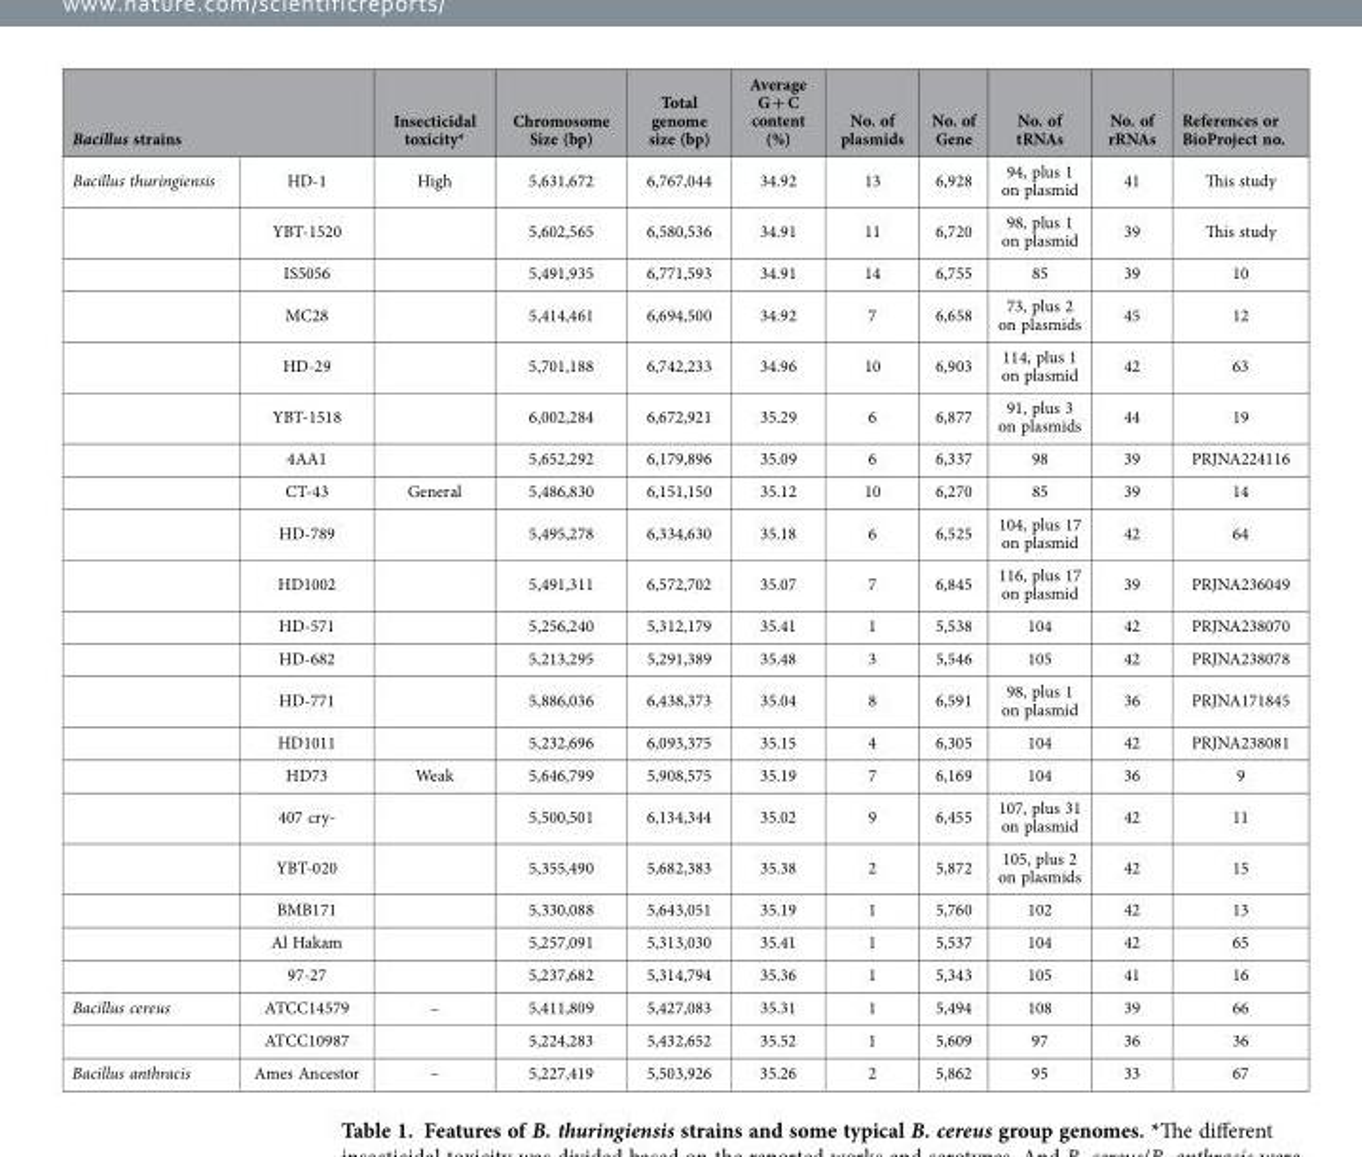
<table><thead><tr><td colspan="2">Bacillus strains</td><td rowspan="2">Insecticidal toxicity* High</td><td rowspan="2">Chromosome Size (bp) 5,631,672</td><td rowspan="2">Total genome size (bp) 6,767,044</td><td rowspan="2">Average G + C content (%) 34.92</td><td rowspan="2">No. of plasmids 13</td><td rowspan="2">No. of Gene 6,928</td><td rowspan="2">No. of tRNAs 94, plus 1 on plasmid</td><td rowspan="2">No. of rRNAs 41</td><td rowspan="2">References or BioProject no. This study</td></tr><tr><td>Bacillus thuringiensis</td><td>HD-1</td></tr></thead><tbody><tr><td></td><td>YBT-1520</td><td></td><td>5,602,565</td><td>6,580,536</td><td>34.91</td><td>11</td><td>6,720</td><td>98, plus 1 on plasmid</td><td>39</td><td>This study</td></tr><tr><td></td><td>IS5056</td><td></td><td>5,491,935</td><td>6,771,593</td><td>34.91</td><td>14</td><td>6,755</td><td>85</td><td>39</td><td>10</td></tr><tr><td></td><td>MC28</td><td></td><td>5,414,461</td><td>6,694,500</td><td>34.92</td><td>7</td><td>6,658</td><td>73, plus 2 on plasmids</td><td>45</td><td>12</td></tr><tr><td></td><td>HD-29</td><td></td><td>5,701,188</td><td>6,742,233</td><td>34.96</td><td>10</td><td>6,903</td><td>114, plus 1 on plasmid</td><td>42</td><td>63</td></tr><tr><td></td><td>YBT-1518</td><td></td><td>6,002,284</td><td>6,672,921</td><td>35.29</td><td>6</td><td>6,877</td><td>91, plus 3 on plasmids</td><td>44</td><td>19</td></tr><tr><td></td><td>4AA1</td><td></td><td>5,652,292</td><td>6,179,896</td><td>35.09</td><td>6</td><td>6,337</td><td>98</td><td>39</td><td>PRJNA224116</td></tr><tr><td></td><td>CT-43</td><td>General</td><td>5,486,830</td><td>6,151,150</td><td>35.12</td><td>10</td><td>6,270</td><td>85</td><td>39</td><td>14</td></tr><tr><td></td><td>HD-789</td><td></td><td>5,495,278</td><td>6,334,630</td><td>35.18</td><td>6</td><td>6,525</td><td>104, plus 17 on plasmid</td><td>42</td><td>64</td></tr><tr><td></td><td>HD1002</td><td></td><td>5,491,311</td><td>6,572,702</td><td>35.07</td><td>7</td><td>6,845</td><td>116, plus 17 on plasmid</td><td>39</td><td>PRJNA236049</td></tr><tr><td></td><td>HD-571</td><td></td><td>5,256,240</td><td>5,312,179</td><td>35.41</td><td>1</td><td>5,538</td><td>104</td><td>42</td><td>PRJNA238070</td></tr><tr><td></td><td>HD-682</td><td></td><td>5,213,295</td><td>5,291,389</td><td>35.48</td><td>3</td><td>5,546</td><td>105</td><td>42</td><td>PRJNA238078</td></tr><tr><td></td><td>HD-771</td><td></td><td>5,886,036</td><td>6,438,373</td><td>35.04</td><td>8</td><td>6,591</td><td>98, plus 1 on plasmid</td><td>36</td><td>PRJNA171845</td></tr><tr><td></td><td>HD1011</td><td></td><td>5,232,696</td><td>6,093,375</td><td>35.15</td><td>4</td><td>6,305</td><td>104</td><td>42</td><td>PRJNA238081</td></tr><tr><td></td><td>HD73</td><td>Weak</td><td>5,646,799</td><td>5,908,575</td><td>35.19</td><td>7</td><td>6,169</td><td>104</td><td>36</td><td>9</td></tr><tr><td></td><td>407 cry-</td><td></td><td>5,500,501</td><td>6,134,344</td><td>35.02</td><td>9</td><td>6,455</td><td>107, plus 31 on plasmid</td><td>42</td><td>11</td></tr><tr><td></td><td>YBT-020</td><td></td><td>5,355,490</td><td>5,682,383</td><td>35.38</td><td>2</td><td>5,872</td><td>105, plus 2 on plasmids</td><td>42</td><td>15</td></tr><tr><td></td><td>BMB171</td><td></td><td>5,330,088</td><td>5,643,051</td><td>35.19</td><td>1</td><td>5,760</td><td>102</td><td>42</td><td>13</td></tr><tr><td></td><td>Al Hakam</td><td></td><td>5,257,091</td><td>5,313,030</td><td>35.41</td><td>1</td><td>5,537</td><td>104</td><td>42</td><td>65</td></tr><tr><td></td><td>97-27</td><td></td><td>5,237,682</td><td>5,314,794</td><td>35.36</td><td>1</td><td>5,343</td><td>105</td><td>41</td><td>16</td></tr><tr><td rowspan="2">Bacillus cereus</td><td>ATCC14579</td><td>–</td><td>5,411,809</td><td>5,427,083</td><td>35.31</td><td>1</td><td>5,494</td><td>108</td><td>39</td><td>66</td></tr><tr><td>ATCC10987</td><td></td><td>5,224,283</td><td>5,432,652</td><td>35.52</td><td>1</td><td>5,609</td><td>97</td><td>36</td><td>36</td></tr><tr><td>Bacillus anthracis</td><td>Ames Ancestor</td><td>–</td><td>5,227,419</td><td>5,503,926</td><td>35.26</td><td>2</td><td>5,862</td><td>95</td><td>33</td><td>67</td></tr></tbody></table>